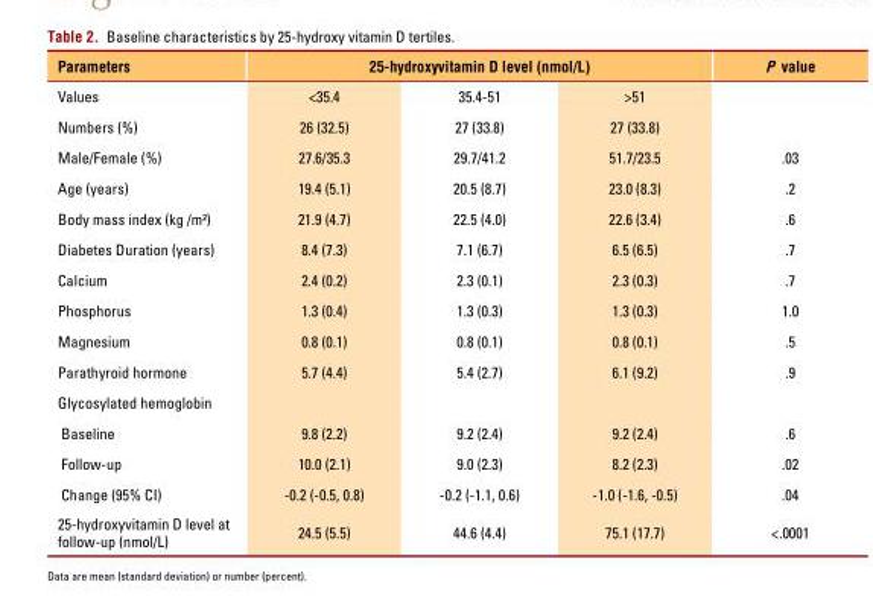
<table><thead><tr><td rowspan="2">Parameters Values</td><td colspan="3">25-hydroxyvitamin D level (nmol/L)</td><td rowspan="2">P value</td></tr><tr><td>&lt;35.4</td><td>35.4-51</td><td>&gt;51</td></tr></thead><tbody><tr><td>Numbers (%)</td><td>26 (32.5)</td><td>27 (33.8)</td><td>27 (33.8)</td><td></td></tr><tr><td>Male/Female (%)</td><td>27.6/35.3</td><td>29.7/41.2</td><td>51.7/23.5</td><td>.03</td></tr><tr><td>Age (years)</td><td>19.4 (5.1)</td><td>20.5 (8.7)</td><td>23.0 (8.3)</td><td>.2</td></tr><tr><td>Body mass index (kg /m²)</td><td>21.9 (4.7)</td><td>22.5 (4.0)</td><td>22.6 (3.4)</td><td>.6</td></tr><tr><td>Diabetes Duration (years)</td><td>8.4 (7.3)</td><td>7.1 (6.7)</td><td>6.5 (6.5)</td><td>.7</td></tr><tr><td>Calcium</td><td>2.4 (0.2)</td><td>2.3 (0.1)</td><td>2.3 (0.3)</td><td>.7</td></tr><tr><td>Phosphorus</td><td>1.3 (0.4)</td><td>1.3 (0.3)</td><td>1.3 (0.3)</td><td>1.0</td></tr><tr><td>Magnesium</td><td>0.8 (0.1)</td><td>0.8 (0.1)</td><td>0.8 (0.1)</td><td>.5</td></tr><tr><td>Parathyroid hormone</td><td>5.7 (4.4)</td><td>5.4 (2.7)</td><td>6.1 (9.2)</td><td>.9</td></tr><tr><td colspan="5">Glycosylated hemoglobin</td></tr><tr><td>Baseline</td><td>9.8 (2.2)</td><td>9.2 (2.4)</td><td>9.2 (2.4)</td><td>.6</td></tr><tr><td>Follow-up</td><td>10.0 (2.1)</td><td>9.0 (2.3)</td><td>8.2 (2.3)</td><td>.02</td></tr><tr><td>Change (95% CI)</td><td>-0.2 (-0.5, 0.8)</td><td>-0.2 (-1.1, 0.6)</td><td>-1.0 (-1.6, -0.5)</td><td>.04</td></tr><tr><td>25-hydroxyvitamin D level at follow-up (nmol/L)</td><td>24.5 (5.5)</td><td>44.6 (4.4)</td><td>75.1 (17.7)</td><td>&lt;.0001</td></tr></tbody></table>